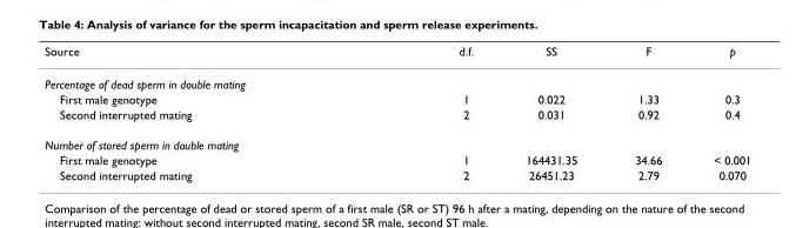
<table><thead><tr><td>Source</td><td>d.f.</td><td>SS</td><td>F</td><td>p</td></tr></thead><tbody><tr><td colspan="5">Percentage of dead sperm in double mating</td></tr><tr><td>First male genotype</td><td>1</td><td>0.022</td><td>1.33</td><td>0.3</td></tr><tr><td>Second interrupted mating</td><td>2</td><td>0.031</td><td>0.92</td><td>0.4</td></tr><tr><td colspan="5">Number of stored sperm in double mating</td></tr><tr><td>First male genotype</td><td>1</td><td>164431.35</td><td>34.66</td><td>&lt; 0.001</td></tr><tr><td>Second interrupted mating</td><td>2</td><td>26451.23</td><td>2.79</td><td>0.070</td></tr></tbody></table>